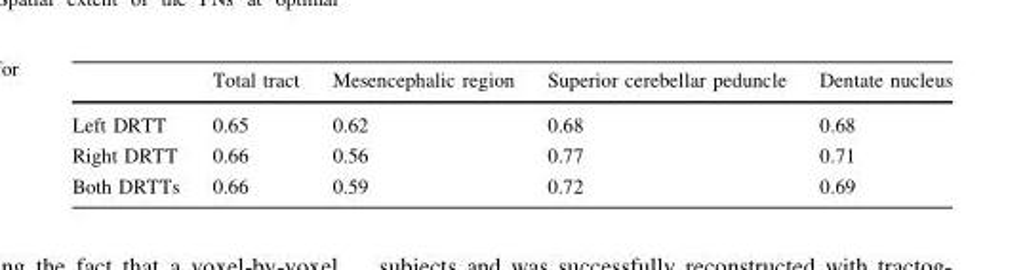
<table><thead><tr><td></td><td>Total tract</td><td>Mesencephalic region</td><td>Superior cerebellar peduncle</td><td>Dentate nucleus</td></tr></thead><tbody><tr><td>Left DRTT</td><td>0.65</td><td>0.62</td><td>0.68</td><td>0.68</td></tr><tr><td>Right DRTT</td><td>0.66</td><td>0.56</td><td>0.77</td><td>0.71</td></tr><tr><td>Both DRTTs</td><td>0.66</td><td>0.59</td><td>0.72</td><td>0.69</td></tr></tbody></table>